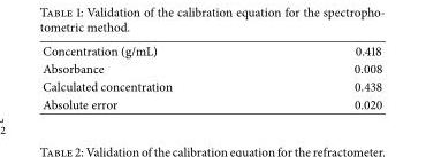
<table><tbody><tr><td>Concentration (g/mL)</td><td>0.418</td></tr><tr><td>Absorbance</td><td>0.008</td></tr><tr><td>Calculated concentration</td><td>0.438</td></tr><tr><td>Absolute error</td><td>0.020</td></tr></tbody></table>